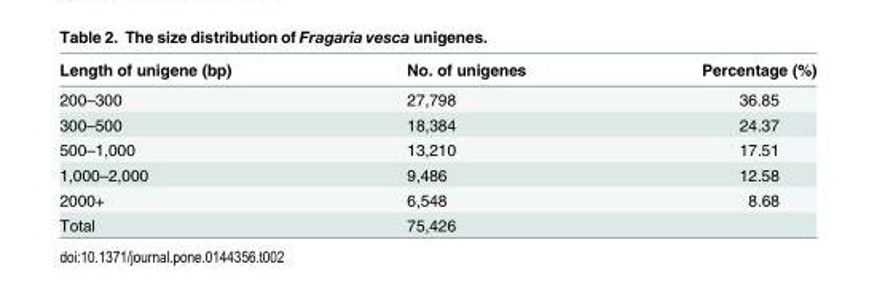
<table><thead><tr><td>Length of unigene (bp)</td><td>No. of unigenes</td><td>Percentage (%)</td></tr></thead><tbody><tr><td>200–300</td><td>27,798</td><td>36.85</td></tr><tr><td>300–500</td><td>18,384</td><td>24.37</td></tr><tr><td>500–1,000</td><td>13,210</td><td>17.51</td></tr><tr><td>1,000–2,000</td><td>9,486</td><td>12.58</td></tr><tr><td>2000+</td><td>6,548</td><td>8.68</td></tr><tr><td>Total</td><td>75,426</td><td></td></tr></tbody></table>